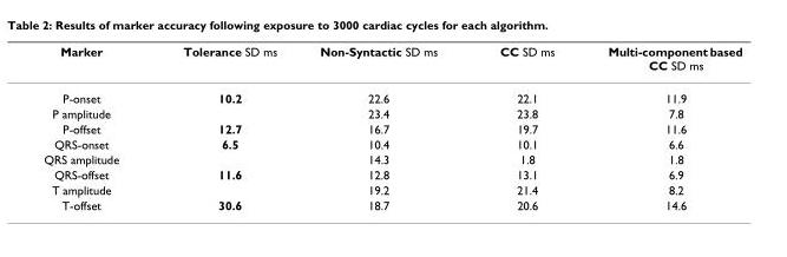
<table><thead><tr><td>Marker</td><td>Tolerance SD ms</td><td>Non-Syntactic SD ms</td><td>CC SD ms</td><td>Multi-component based CC SD ms</td></tr></thead><tbody><tr><td>P-onset</td><td>10.2</td><td>22.6</td><td>22.1</td><td>11.9</td></tr><tr><td>P amplitude</td><td></td><td>23.4</td><td>23.8</td><td>7.8</td></tr><tr><td>P-offset</td><td>12.7</td><td>16.7</td><td>19.7</td><td>11.6</td></tr><tr><td>QRS-onset</td><td>6.5</td><td>10.4</td><td>10.1</td><td>6.6</td></tr><tr><td>QRS amplitude</td><td></td><td>14.3</td><td>1.8</td><td>1.8</td></tr><tr><td>QRS-offset</td><td>11.6</td><td>12.8</td><td>13.1</td><td>6.9</td></tr><tr><td>T amplitude</td><td></td><td>19.2</td><td>21.4</td><td>8.2</td></tr><tr><td>T-offset</td><td>30.6</td><td>18.7</td><td>20.6</td><td>14.6</td></tr></tbody></table>